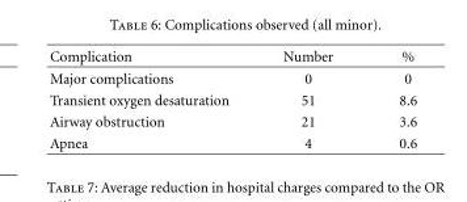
<table><thead><tr><td>Complication</td><td>Number</td><td>%</td></tr></thead><tbody><tr><td>Major complications</td><td>0</td><td>0</td></tr><tr><td>Transient oxygen desaturation</td><td>51</td><td>8.6</td></tr><tr><td>Airway obstruction</td><td>21</td><td>3.6</td></tr><tr><td>Apnea</td><td>4</td><td>0.6</td></tr></tbody></table>